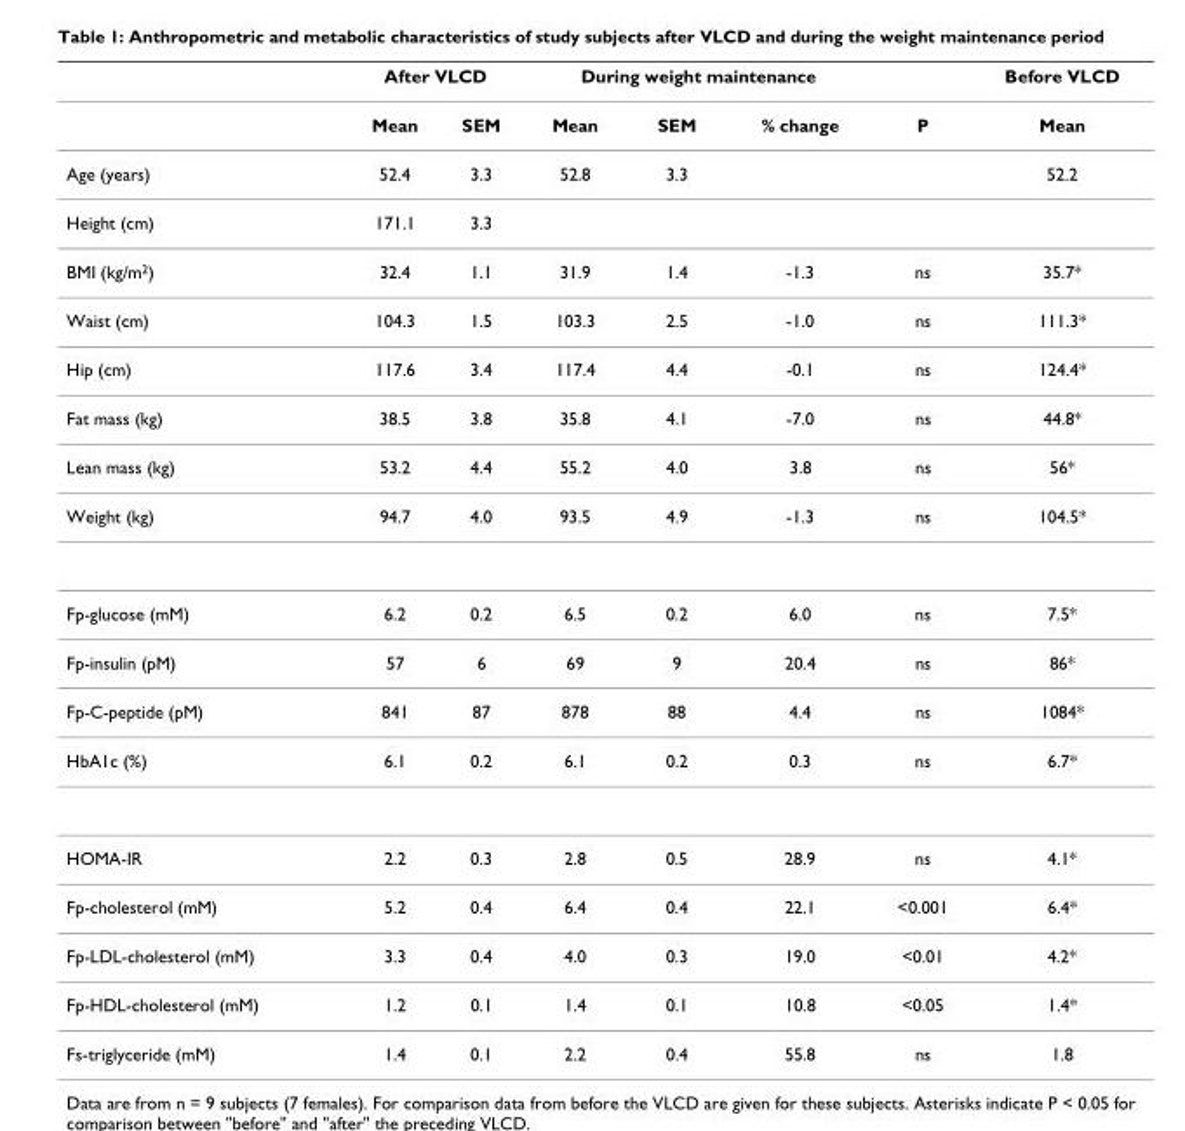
<table><thead><tr><td rowspan="2"></td><td colspan="2">After VLCD</td><td colspan="3">During weight maintenance</td><td rowspan="2">P</td><td rowspan="2">Before VLCD Mean</td></tr><tr><td>Mean</td><td>SEM</td><td>Mean</td><td>SEM</td><td>% change</td></tr></thead><tbody><tr><td>Age (years)</td><td>52.4</td><td>3.3</td><td>52.8</td><td>3.3</td><td></td><td></td><td>52.2</td></tr><tr><td>Height (cm)</td><td>171.1</td><td>3.3</td><td></td><td></td><td></td><td></td><td></td></tr><tr><td>BMI (kg/m2)</td><td>32.4</td><td>1.1</td><td>31.9</td><td>1.4</td><td>-1.3</td><td>ns</td><td>35.7*</td></tr><tr><td>Waist (cm)</td><td>104.3</td><td>1.5</td><td>103.3</td><td>2.5</td><td>-1.0</td><td>ns</td><td>111.3*</td></tr><tr><td>Hip (cm)</td><td>117.6</td><td>3.4</td><td>117.4</td><td>4.4</td><td>-0.1</td><td>ns</td><td>124.4*</td></tr><tr><td>Fat mass (kg)</td><td>38.5</td><td>3.8</td><td>35.8</td><td>4.1</td><td>-7.0</td><td>ns</td><td>44.8*</td></tr><tr><td>Lean mass (kg)</td><td>53.2</td><td>4.4</td><td>55.2</td><td>4.0</td><td>3.8</td><td>ns</td><td>56*</td></tr><tr><td>Weight (kg)</td><td>94.7</td><td>4.0</td><td>93.5</td><td>4.9</td><td>-1.3</td><td>ns</td><td>104.5*</td></tr><tr><td>Fp-glucose (mM)</td><td>6.2</td><td>0.2</td><td>6.5</td><td>0.2</td><td>6.0</td><td>ns</td><td>7.5*</td></tr><tr><td>Fp-insulin (pM)</td><td>57</td><td>6</td><td>69</td><td>9</td><td>20.4</td><td>ns</td><td>86*</td></tr><tr><td>Fp-C-peptide (pM)</td><td>841</td><td>87</td><td>878</td><td>88</td><td>4.4</td><td>ns</td><td>1084*</td></tr><tr><td>HbA1c (%)</td><td>6.1</td><td>0.2</td><td>6.1</td><td>0.2</td><td>0.3</td><td>ns</td><td>6.7*</td></tr><tr><td>HOMA-IR</td><td>2.2</td><td>0.3</td><td>2.8</td><td>0.5</td><td>28.9</td><td>ns</td><td>4.1*</td></tr><tr><td>Fp-cholesterol (mM)</td><td>5.2</td><td>0.4</td><td>6.4</td><td>0.4</td><td>22.1</td><td>&lt;0.001</td><td>6.4*</td></tr><tr><td>Fp-LDL-cholesterol (mM)</td><td>3.3</td><td>0.4</td><td>4.0</td><td>0.3</td><td>19.0</td><td>&lt;0.01</td><td>4.2*</td></tr><tr><td>Fp-HDL-cholesterol (mM)</td><td>1.2</td><td>0.1</td><td>1.4</td><td>0.1</td><td>10.8</td><td>&lt;0.05</td><td>1.4*</td></tr><tr><td>Fs-triglyceride (mM)</td><td>1.4</td><td>0.1</td><td>2.2</td><td>0.4</td><td>55.8</td><td>ns</td><td>1.8</td></tr></tbody></table>